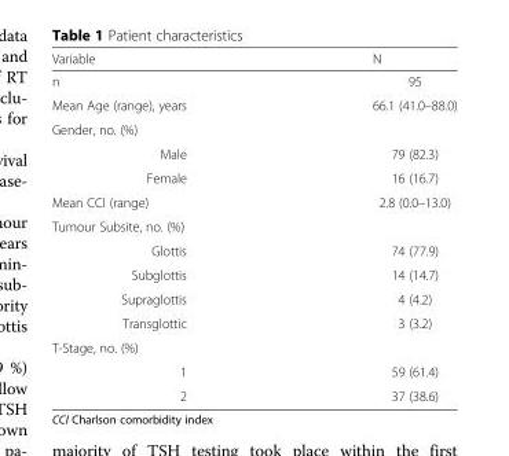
<table><thead><tr><td>Variable</td><td>N</td></tr></thead><tbody><tr><td>n</td><td>95</td></tr><tr><td>Mean Age (range), years</td><td>66.1 (41.0–88.0)</td></tr><tr><td colspan="2">Gender, no. (%)</td></tr><tr><td>Male</td><td>79 (82.3)</td></tr><tr><td>Female</td><td>16 (16.7)</td></tr><tr><td>Mean CCI (range)</td><td>2.8 (0.0–13.0)</td></tr><tr><td colspan="2">Tumour Subsite, no. (%)</td></tr><tr><td>Glottis</td><td>74 (77.9)</td></tr><tr><td>Subglottis</td><td>14 (14.7)</td></tr><tr><td>Supraglottis</td><td>4 (4.2)</td></tr><tr><td>Transglottic</td><td>3 (3.2)</td></tr><tr><td colspan="2">T-Stage, no. (%)</td></tr><tr><td>1</td><td>59 (61.4)</td></tr><tr><td>2</td><td>37 (38.6)</td></tr></tbody></table>